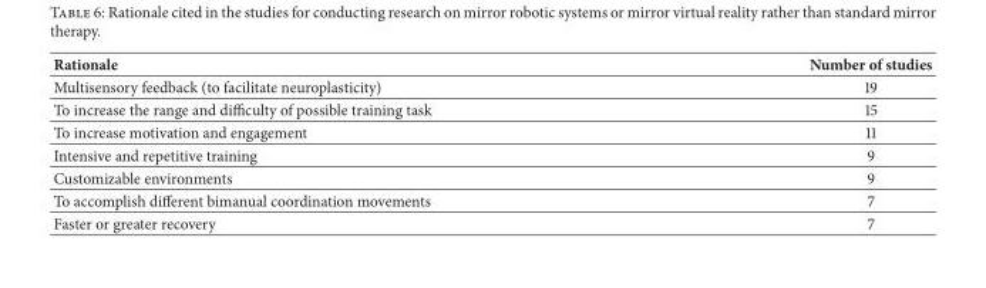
<table><thead><tr><td>Rationale</td><td>Number of studies</td></tr></thead><tbody><tr><td>Multisensory feedback (to facilitate neuroplasticity)</td><td>19</td></tr><tr><td>To increase the range and difficulty of possible training task</td><td>15</td></tr><tr><td>To increase motivation and engagement</td><td>11</td></tr><tr><td>Intensive and repetitive training</td><td>9</td></tr><tr><td>Customizable environments</td><td>9</td></tr><tr><td>To accomplish different bimanual coordination movements</td><td>7</td></tr><tr><td>Faster or greater recovery</td><td>7</td></tr></tbody></table>